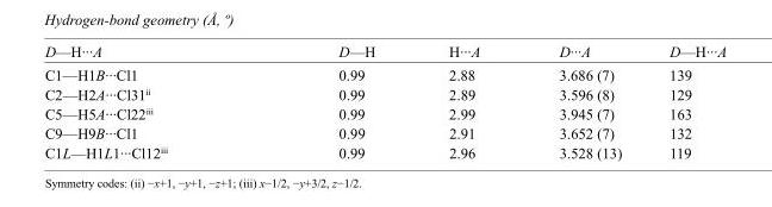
<table><tbody><tr><td>D—H···A</td><td>D—H</td><td>H···A</td><td>D···A</td><td>D—H···A</td></tr><tr><td>C1—H1B···Cl1</td><td>0.99</td><td>2.88</td><td>3.686 (7)</td><td>139</td></tr><tr><td>C2—H2A···Cl31<sup>ii</sup></td><td>0.99</td><td>2.89</td><td>3.596 (8)</td><td>129</td></tr><tr><td>C5—H5A···Cl22<sup>iii</sup></td><td>0.99</td><td>2.99</td><td>3.945 (7)</td><td>163</td></tr><tr><td>C9—H9B···Cl1</td><td>0.99</td><td>2.91</td><td>3.652 (7)</td><td>132</td></tr><tr><td>C1L—H1L1···Cl12<sup>iii</sup></td><td>0.99</td><td>2.96</td><td>3.528 (13)</td><td>119</td></tr></tbody></table>